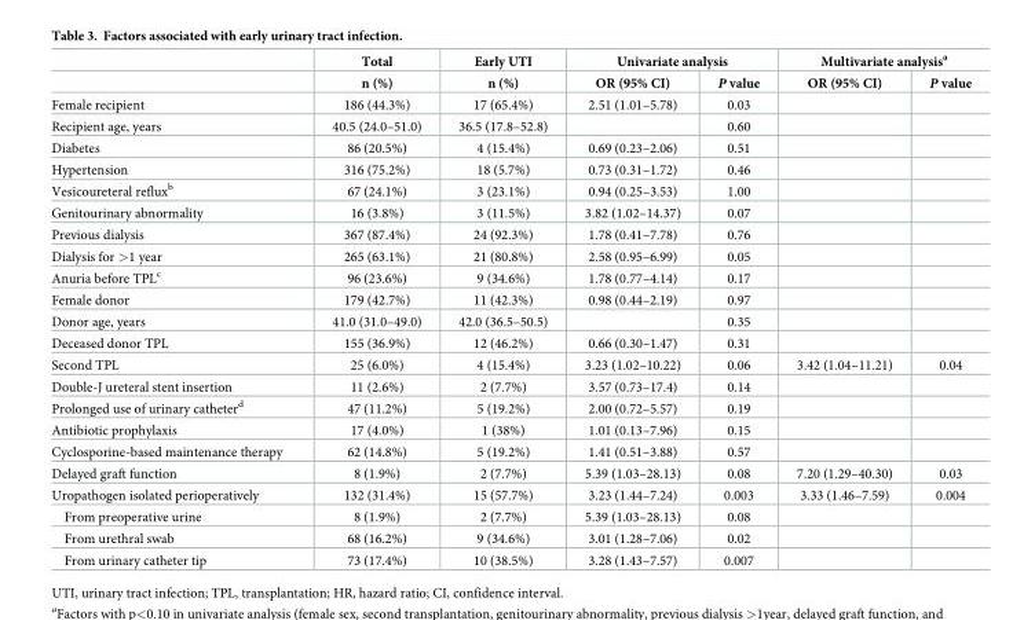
<table><thead><tr><td rowspan="2"></td><td rowspan="2">Total n (%)</td><td rowspan="2">Early UTI n (%)</td><td colspan="2">Univariate analysis</td><td colspan="2">Multivariate analysis<sup>a</sup></td></tr><tr><td>OR (95% CI)</td><td>P value</td><td>OR (95% CI)</td><td>P value</td></tr></thead><tbody><tr><td>Female recipient</td><td>186 (44.3%)</td><td>17 (65.4%)</td><td>2.51 (1.01–5.78)</td><td>0.03</td><td></td><td></td></tr><tr><td>Recipient age, years</td><td>40.5 (24.0–51.0)</td><td>36.5 (17.8–52.8)</td><td></td><td>0.60</td><td></td><td></td></tr><tr><td>Diabetes</td><td>86 (20.5%)</td><td>4 (15.4%)</td><td>0.69 (0.23–2.06)</td><td>0.51</td><td></td><td></td></tr><tr><td>Hypertension</td><td>316 (75.2%)</td><td>18 (5.7%)</td><td>0.73 (0.31–1.72)</td><td>0.46</td><td></td><td></td></tr><tr><td>Vesicoureteral reflux<sup>b</sup></td><td>67 (24.1%)</td><td>3 (23.1%)</td><td>0.94 (0.25–3.53)</td><td>1.00</td><td></td><td></td></tr><tr><td>Genitourinary abnormality</td><td>16 (3.8%)</td><td>3 (11.5%)</td><td>3.82 (1.02–14.37)</td><td>0.07</td><td></td><td></td></tr><tr><td>Previous dialysis</td><td>367 (87.4%)</td><td>24 (92.3%)</td><td>1.78 (0.41–7.78)</td><td>0.76</td><td></td><td></td></tr><tr><td>Dialysis for &gt;1 year</td><td>265 (63.1%)</td><td>21 (80.8%)</td><td>2.58 (0.95–6.99)</td><td>0.05</td><td></td><td></td></tr><tr><td>Anuria before TPL<sup>c</sup></td><td>96 (23.6%)</td><td>9 (34.6%)</td><td>1.78 (0.77–4.14)</td><td>0.17</td><td></td><td></td></tr><tr><td>Female donor</td><td>179 (42.7%)</td><td>11 (42.3%)</td><td>0.98 (0.44–2.19)</td><td>0.97</td><td></td><td></td></tr><tr><td>Donor age, years</td><td>41.0 (31.0–49.0)</td><td>42.0 (36.5–50.5)</td><td></td><td>0.35</td><td></td><td></td></tr><tr><td>Deceased donor TPL</td><td>155 (36.9%)</td><td>12 (46.2%)</td><td>0.66 (0.30–1.47)</td><td>0.31</td><td></td><td></td></tr><tr><td>Second TPL</td><td>25 (6.0%)</td><td>4 (15.4%)</td><td>3.23 (1.02–10.22)</td><td>0.06</td><td>3.42 (1.04–11.21)</td><td>0.04</td></tr><tr><td>Double-J ureteral stent insertion</td><td>11 (2.6%)</td><td>2 (7.7%)</td><td>3.57 (0.73–17.4)</td><td>0.14</td><td></td><td></td></tr><tr><td>Prolonged use of urinary catheter<sup>d</sup></td><td>47 (11.2%)</td><td>5 (19.2%)</td><td>2.00 (0.72–5.57)</td><td>0.19</td><td></td><td></td></tr><tr><td>Antibiotic prophylaxis</td><td>17 (4.0%)</td><td>1 (38%)</td><td>1.01 (0.13–7.96)</td><td>0.15</td><td></td><td></td></tr><tr><td>Cyclosporine-based maintenance therapy</td><td>62 (14.8%)</td><td>5 (19.2%)</td><td>1.41 (0.51–3.88)</td><td>0.57</td><td></td><td></td></tr><tr><td>Delayed graft function</td><td>8 (1.9%)</td><td>2 (7.7%)</td><td>5.39 (1.03–28.13)</td><td>0.08</td><td>7.20 (1.29–40.30)</td><td>0.03</td></tr><tr><td>Uropathogen isolated perioperatively</td><td>132 (31.4%)</td><td>15 (57.7%)</td><td>3.23 (1.44–7.24)</td><td>0.003</td><td>3.33 (1.46–7.59)</td><td>0.004</td></tr><tr><td>From preoperative urine</td><td>8 (1.9%)</td><td>2 (7.7%)</td><td>5.39 (1.03–28.13)</td><td>0.08</td><td></td><td></td></tr><tr><td>From urethral swab</td><td>68 (16.2%)</td><td>9 (34.6%)</td><td>3.01 (1.28–7.06)</td><td>0.02</td><td></td><td></td></tr><tr><td>From urinary catheter tip</td><td>73 (17.4%)</td><td>10 (38.5%)</td><td>3.28 (1.43–7.57)</td><td>0.007</td><td></td><td></td></tr></tbody></table>